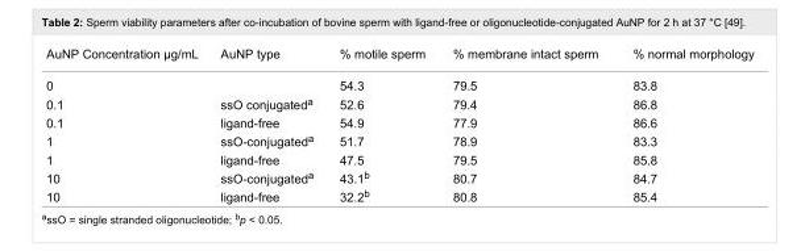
<table><tbody><tr><td>AuNP Concentration µg/mL</td><td>AuNP type</td><td>% motile sperm</td><td>% membrane intact sperm</td><td>% normal morphology</td></tr><tr><td>0</td><td></td><td>54.3</td><td>79.5</td><td>83.8</td></tr><tr><td>0.1</td><td>ssO conjugated<sup>a</sup></td><td>52.6</td><td>79.4</td><td>86.8</td></tr><tr><td>0.1</td><td>ligand-free</td><td>54.9</td><td>77.9</td><td>86.6</td></tr><tr><td>1</td><td>ssO-conjugated<sup>a</sup></td><td>51.7</td><td>78.9</td><td>83.3</td></tr><tr><td>1</td><td>ligand-free</td><td>47.5</td><td>79.5</td><td>85.8</td></tr><tr><td>10</td><td>ssO-conjugated<sup>a</sup></td><td>43.1<sup>b</sup></td><td>80.7</td><td>84.7</td></tr><tr><td>10</td><td>ligand-free</td><td>32.2<sup>b</sup></td><td>80.8</td><td>85.4</td></tr></tbody></table>